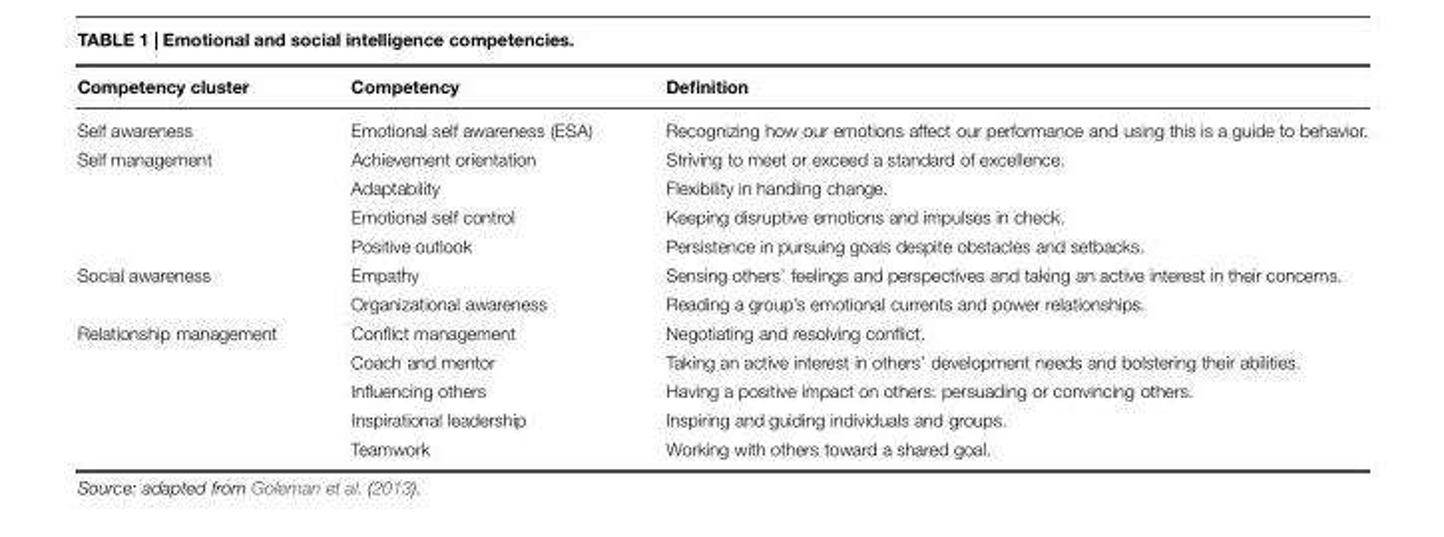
<table><thead><tr><td>Competency cluster</td><td>Competency</td><td>Definition</td></tr></thead><tbody><tr><td>Self awareness</td><td>Emotional self awareness (ESA)</td><td>Recognizing how our emotions affect our performance and using this is a guide to behavior.</td></tr><tr><td rowspan="4">Self management</td><td>Achievement orientation</td><td>Striving to meet or exceed a standard of excellence.</td></tr><tr><td>Adaptability</td><td>Flexibility in handling change.</td></tr><tr><td>Emotional self control</td><td>Keeping disruptive emotions and impulses in check.</td></tr><tr><td>Positive outlook</td><td>Persistence in pursuing goals despite obstacles and setbacks.</td></tr><tr><td rowspan="2">Social awareness</td><td>Empathy</td><td>Sensing others’ feelings and perspectives and taking an active interest in their concerns.</td></tr><tr><td>Organizational awareness</td><td>Reading a group’s emotional currents and power relationships.</td></tr><tr><td rowspan="5">Relationship management</td><td>Conflict management</td><td>Negotiating and resolving conflict.</td></tr><tr><td>Coach and mentor</td><td>Taking an active interest in others’ development needs and bolstering their abilities.</td></tr><tr><td>Influencing others</td><td>Having a positive impact on others: persuading or convincing others.</td></tr><tr><td>Inspirational leadership</td><td>Inspiring and guiding individuals and groups.</td></tr><tr><td>Teamwork</td><td>Working with others toward a shared goal.</td></tr></tbody></table>